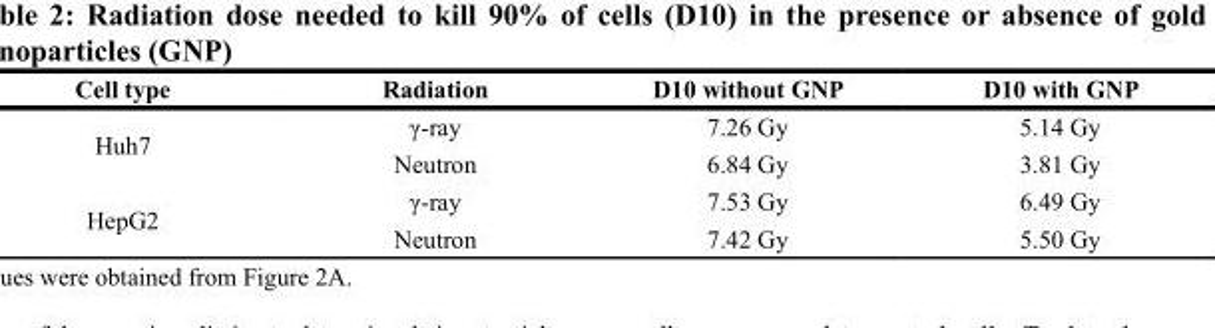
<table><thead><tr><td>Cell type</td><td>Radiation</td><td>D10 without GNP</td><td>D10 with GNP</td></tr></thead><tbody><tr><td rowspan="2">Huh7</td><td>γ-ray</td><td>7.26 Gy</td><td>5.14 Gy</td></tr><tr><td>Neutron</td><td>6.84 Gy</td><td>3.81 Gy</td></tr><tr><td rowspan="2">HepG2</td><td>γ-ray</td><td>7.53 Gy</td><td>6.49 Gy</td></tr><tr><td>Neutron</td><td>7.42 Gy</td><td>5.50 Gy</td></tr></tbody></table>